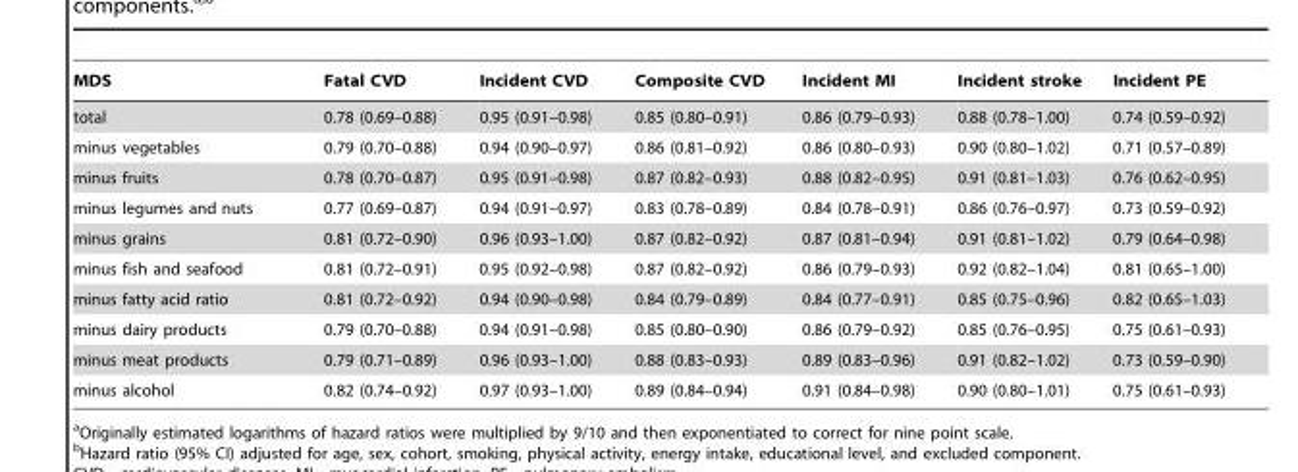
<table><thead><tr><td>MDS</td><td>Fatal CVD</td><td>Incident CVD</td><td>Composite CVD</td><td>Incident MI</td><td>Incident stroke</td><td>Incident PE</td></tr></thead><tbody><tr><td>total</td><td>0.78 (0.69–0.88)</td><td>0.95 (0.91–0.98)</td><td>0.85 (0.80–0.91)</td><td>0.86 (0.79–0.93)</td><td>0.88 (0.78–1.00)</td><td>0.74 (0.59–0.92)</td></tr><tr><td>minus vegetables</td><td>0.79 (0.70–0.88)</td><td>0.94 (0.90–0.97)</td><td>0.86 (0.81–0.92)</td><td>0.86 (0.80–0.93)</td><td>0.90 (0.80–1.02)</td><td>0.71 (0.57–0.89)</td></tr><tr><td>minus fruits</td><td>0.78 (0.70–0.87)</td><td>0.95 (0.91–0.98)</td><td>0.87 (0.82–0.93)</td><td>0.88 (0.82–0.95)</td><td>0.91 (0.81–1.03)</td><td>0.76 (0.62–0.95)</td></tr><tr><td>minus legumes and nuts</td><td>0.77 (0.69–0.87)</td><td>0.94 (0.91–0.97)</td><td>0.83 (0.78–0.89)</td><td>0.84 (0.78–0.91)</td><td>0.86 (0.76–0.97)</td><td>0.73 (0.59–0.92)</td></tr><tr><td>minus grains</td><td>0.81 (0.72–0.90)</td><td>0.96 (0.93–1.00)</td><td>0.87 (0.82–0.92)</td><td>0.87 (0.81–0.94)</td><td>0.91 (0.81–1.02)</td><td>0.79 (0.64–0.98)</td></tr><tr><td>minus fish and seafood</td><td>0.81 (0.72–0.91)</td><td>0.95 (0.92–0.98)</td><td>0.87 (0.82–0.92)</td><td>0.86 (0.79–0.93)</td><td>0.92 (0.82–1.04)</td><td>0.81 (0.65–1.00)</td></tr><tr><td>minus fatty acid ratio</td><td>0.81 (0.72–0.92)</td><td>0.94 (0.90–0.98)</td><td>0.84 (0.79–0.89)</td><td>0.84 (0.77–0.91)</td><td>0.85 (0.75–0.96)</td><td>0.82 (0.65–1.03)</td></tr><tr><td>minus dairy products</td><td>0.79 (0.70–0.88)</td><td>0.94 (0.91–0.98)</td><td>0.85 (0.80–0.90)</td><td>0.86 (0.79–0.92)</td><td>0.85 (0.76–0.95)</td><td>0.75 (0.61–0.93)</td></tr><tr><td>minus meat products</td><td>0.79 (0.71–0.89)</td><td>0.96 (0.93–1.00)</td><td>0.88 (0.83–0.93)</td><td>0.89 (0.83–0.96)</td><td>0.91 (0.82–1.02)</td><td>0.73 (0.59–0.90)</td></tr><tr><td>minus alcohol</td><td>0.82 (0.74–0.92)</td><td>0.97 (0.93–1.00)</td><td>0.89 (0.84–0.94)</td><td>0.91 (0.84–0.98)</td><td>0.90 (0.80–1.01)</td><td>0.75 (0.61–0.93)</td></tr></tbody></table>